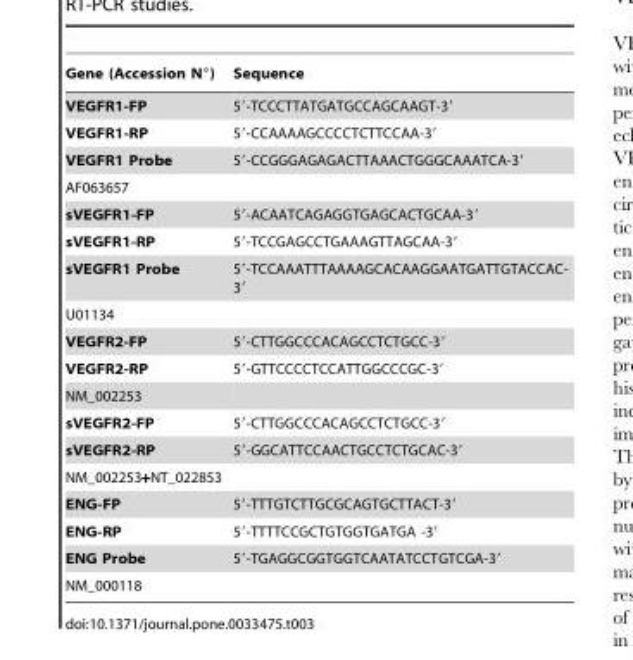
<table><thead><tr><td>Gene (Accession N°)</td><td>Sequence</td></tr></thead><tbody><tr><td>VEGFR1-FP</td><td>5′-TCCCTTATGATGCCAGCAAGT-3′</td></tr><tr><td>VEGFR1-RP</td><td>5′-CCAAAAGCCCCTCTTCCAA-3′</td></tr><tr><td>VEGFR1 Probe</td><td>5′-CCGGGAGAGACTTAAACTGGGCAAATCA-3′</td></tr><tr><td colspan="2">AF063657</td></tr><tr><td>sVEGFR1-FP</td><td>5′-ACAATCAGAGGTGAGCACTGCAA-3′</td></tr><tr><td>sVEGFR1-RP</td><td>5′-TCCGAGCCTGAAAGTTAGCAA-3′</td></tr><tr><td>sVEGFR1 Probe</td><td>5′-TCCAAATTTAAAAGCACAAGGAATGATTGTACCAC- 3′</td></tr><tr><td colspan="2">U01134</td></tr><tr><td>VEGFR2-FP</td><td>5′-CTTGGCCCACAGCCTCTGCC-3′</td></tr><tr><td>VEGFR2-RP</td><td>5′-GTTCCCCTCCATTGGCCCGC-3′</td></tr><tr><td colspan="2">NM_002253</td></tr><tr><td>sVEGFR2-FP</td><td>5′-CTTGGCCCACAGCCTCTGCC-3′</td></tr><tr><td>sVEGFR2-RP</td><td>5′-GGCATTCCAACTGCCTCTGCAC-3′</td></tr><tr><td colspan="2">NM_002253+NT_022853</td></tr><tr><td>ENG-FP</td><td>5′-TTTGTCTTGCGCAGTGCTTACT-3′</td></tr><tr><td>ENG-RP</td><td>5′-TTTTCCGCTGTGGTGATGA -3′</td></tr><tr><td>ENG Probe</td><td>5′-TGAGGCGGTGGTCAATATCCTGTCGA-3′</td></tr><tr><td>NM_000118</td><td></td></tr></tbody></table>